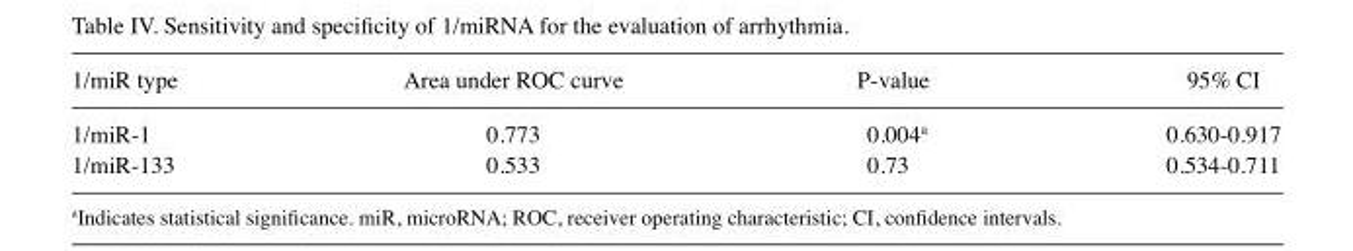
<table><thead><tr><td>1/miR type</td><td>Area under ROC curve</td><td>P-value</td><td>95% CI</td></tr></thead><tbody><tr><td>1/miR-1</td><td>0.773</td><td>0.004<sup>a</sup></td><td>0.630-0.917</td></tr><tr><td>1/miR-133</td><td>0.533</td><td>0.73</td><td>0.534-0.711</td></tr></tbody></table>